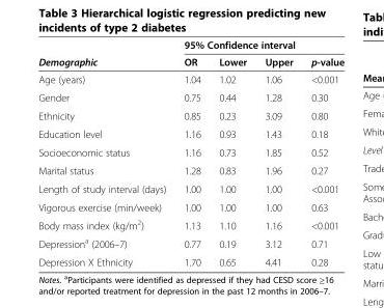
<table><thead><tr><td rowspan="2">Demographic</td><td colspan="4">95% Confidence interval</td></tr><tr><td>OR</td><td>Lower</td><td>Upper</td><td>p-value</td></tr></thead><tbody><tr><td>Age (years)</td><td>1.04</td><td>1.02</td><td>1.06</td><td>&lt;0.001</td></tr><tr><td>Gender</td><td>0.75</td><td>0.44</td><td>1.28</td><td>0.30</td></tr><tr><td>Ethnicity</td><td>0.85</td><td>0.23</td><td>3.09</td><td>0.80</td></tr><tr><td>Education level</td><td>1.16</td><td>0.93</td><td>1.43</td><td>0.18</td></tr><tr><td>Socioeconomic status</td><td>1.16</td><td>0.73</td><td>1.85</td><td>0.52</td></tr><tr><td>Marital status</td><td>1.28</td><td>0.83</td><td>1.96</td><td>0.27</td></tr><tr><td>Length of study interval (days)</td><td>1.00</td><td>1.00</td><td>1.00</td><td>&lt;0.001</td></tr><tr><td>Vigorous exercise (min/week)</td><td>1.00</td><td>1.00</td><td>1.00</td><td>0.63</td></tr><tr><td>Body mass index (kg/m<sup>2</sup>)</td><td>1.13</td><td>1.10</td><td>1.16</td><td>&lt;0.001</td></tr><tr><td>Depression<sup>a</sup> (2006–7)</td><td>0.77</td><td>0.19</td><td>3.12</td><td>0.71</td></tr><tr><td>Depression X Ethnicity</td><td>1.70</td><td>0.65</td><td>4.41</td><td>0.28</td></tr></tbody></table>